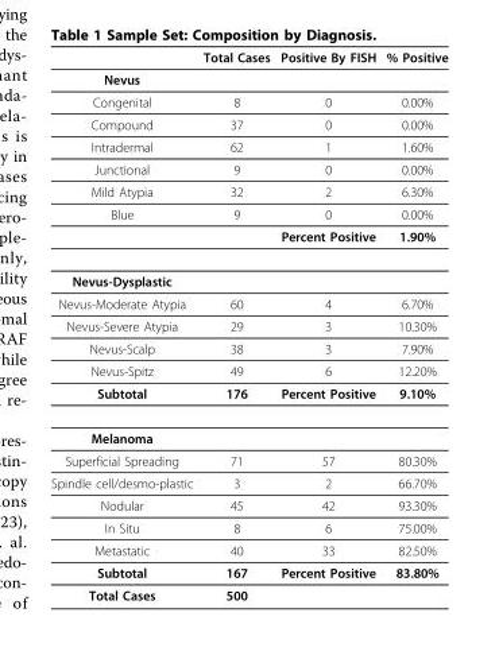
<table><thead><tr><td></td><td>Total Cases</td><td>Positive By FISH</td><td>% Positive</td></tr></thead><tbody><tr><td colspan="4">Nevus</td></tr><tr><td>Congenital</td><td>8</td><td>0</td><td>0.00%</td></tr><tr><td>Compound</td><td>37</td><td>0</td><td>0.00%</td></tr><tr><td>Intradermal</td><td>62</td><td>1</td><td>1.60%</td></tr><tr><td>Junctional</td><td>9</td><td>0</td><td>0.00%</td></tr><tr><td>Mild Atypia</td><td>32</td><td>2</td><td>6.30%</td></tr><tr><td rowspan="2">Blue</td><td>9</td><td>0</td><td>0.00%</td></tr><tr><td></td><td>Percent Positive</td><td>1.90%</td></tr><tr><td colspan="4">Nevus-Dysplastic</td></tr><tr><td>Nevus-Moderate Atypia</td><td>60</td><td>4</td><td>6.70%</td></tr><tr><td>Nevus-Severe Atypia</td><td>29</td><td>3</td><td>10.30%</td></tr><tr><td>Nevus-Scalp</td><td>38</td><td>3</td><td>7.90%</td></tr><tr><td>Nevus-Spitz</td><td>49</td><td>6</td><td>12.20%</td></tr><tr><td>Subtotal</td><td>176</td><td>Percent Positive</td><td>9.10%</td></tr><tr><td colspan="4">Melanoma</td></tr><tr><td>Superficial Spreading</td><td>71</td><td>57</td><td>80.30%</td></tr><tr><td>Spindle cell/desmo-plastic</td><td>3</td><td>2</td><td>66.70%</td></tr><tr><td>Nodular</td><td>45</td><td>42</td><td>93.30%</td></tr><tr><td>In Situ</td><td>8</td><td>6</td><td>75.00%</td></tr><tr><td>Metastatic</td><td>40</td><td>33</td><td>82.50%</td></tr><tr><td>Subtotal</td><td>167</td><td>Percent Positive</td><td>83.80%</td></tr><tr><td>Total Cases</td><td>500</td><td></td><td></td></tr></tbody></table>